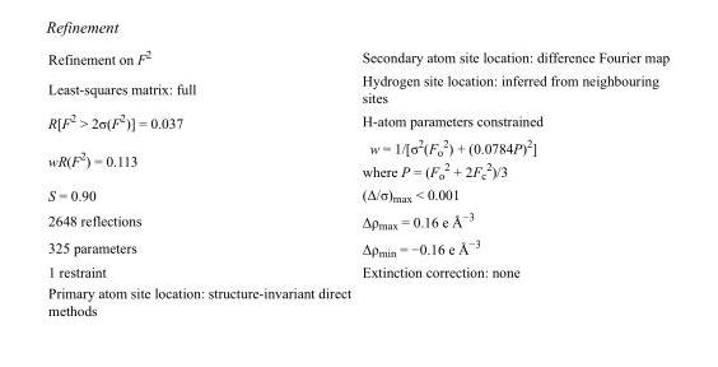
<table><tbody><tr><td>Refinement on F<sup>2</sup></td><td>Secondary atom site location: difference Fourier map</td></tr><tr><td>Least-squares matrix: full</td><td>Hydrogen site location: inferred from neighbouring sites</td></tr><tr><td>R[F<sup>2</sup> &gt; 2σ(F<sup>2</sup>)] = 0.037</td><td>H-atom parameters constrained</td></tr><tr><td>wR(F<sup>2</sup>) = 0.113</td><td>w = 1/[σ<sup>2</sup>(F<sub>o</sub> <sup>2</sup>) + (0.0784P)<sup>2</sup>] where P = (F<sub>o</sub> <sup>2</sup> + 2F<sub>c</sub> <sup>2</sup>)/3</td></tr><tr><td>S = 0.90</td><td>(Δ/σ)<sub>max</sub> &lt; 0.001</td></tr><tr><td>2648 reflections</td><td>Δρ<sub>max</sub> = 0.16 e Å<sup>−3</sup></td></tr><tr><td>325 parameters</td><td>Δρ<sub>min</sub> = −0.16 e Å<sup>−3</sup></td></tr><tr><td>1 restraint</td><td>Extinction correction: none</td></tr><tr><td>Primary atom site location: structure-invariant direct methods</td><td></td></tr></tbody></table>